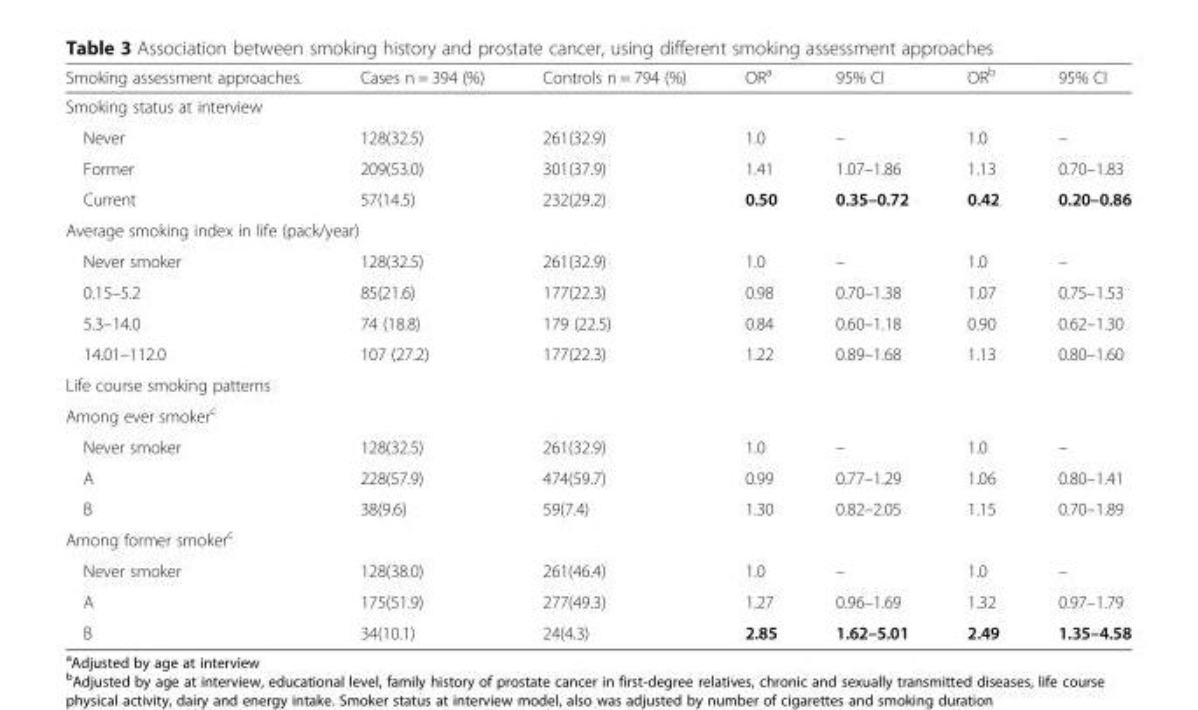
<table><thead><tr><td>Smoking assessment approaches.</td><td>Cases n = 394 (%)</td><td>Controls n = 794 (%)</td><td>OR<sup>a</sup></td><td>95% CI</td><td>OR<sup>b</sup></td><td>95% CI</td></tr></thead><tbody><tr><td colspan="7">Smoking status at interview</td></tr><tr><td>Never</td><td>128(32.5)</td><td>261(32.9)</td><td>1.0</td><td>–</td><td>1.0</td><td>–</td></tr><tr><td>Former</td><td>209(53.0)</td><td>301(37.9)</td><td>1.41</td><td>1.07–1.86</td><td>1.13</td><td>0.70–1.83</td></tr><tr><td>Current</td><td>57(14.5)</td><td>232(29.2)</td><td>0.50</td><td>0.35–0.72</td><td>0.42</td><td>0.20–0.86</td></tr><tr><td colspan="7">Average smoking index in life (pack/year)</td></tr><tr><td>Never smoker</td><td>128(32.5)</td><td>261(32.9)</td><td>1.0</td><td>–</td><td>1.0</td><td>–</td></tr><tr><td>0.15–5.2</td><td>85(21.6)</td><td>177(22.3)</td><td>0.98</td><td>0.70–1.38</td><td>1.07</td><td>0.75–1.53</td></tr><tr><td>5.3–14.0</td><td>74 (18.8)</td><td>179 (22.5)</td><td>0.84</td><td>0.60–1.18</td><td>0.90</td><td>0.62–1.30</td></tr><tr><td>14.01–112.0</td><td>107 (27.2)</td><td>177(22.3)</td><td>1.22</td><td>0.89–1.68</td><td>1.13</td><td>0.80–1.60</td></tr><tr><td colspan="7">Life course smoking patterns</td></tr><tr><td colspan="7">Among ever smoker<sup>c</sup></td></tr><tr><td>Never smoker</td><td>128(32.5)</td><td>261(32.9)</td><td>1.0</td><td>–</td><td>1.0</td><td>–</td></tr><tr><td>A</td><td>228(57.9)</td><td>474(59.7)</td><td>0.99</td><td>0.77–1.29</td><td>1.06</td><td>0.80–1.41</td></tr><tr><td>B</td><td>38(9.6)</td><td>59(7.4)</td><td>1.30</td><td>0.82–2.05</td><td>1.15</td><td>0.70–1.89</td></tr><tr><td colspan="7">Among former smoker<sup>c</sup></td></tr><tr><td>Never smoker</td><td>128(38.0)</td><td>261(46.4)</td><td>1.0</td><td>–</td><td>1.0</td><td>–</td></tr><tr><td>A</td><td>175(51.9)</td><td>277(49.3)</td><td>1.27</td><td>0.96–1.69</td><td>1.32</td><td>0.97–1.79</td></tr><tr><td>B</td><td>34(10.1)</td><td>24(4.3)</td><td>2.85</td><td>1.62–5.01</td><td>2.49</td><td>1.35–4.58</td></tr></tbody></table>